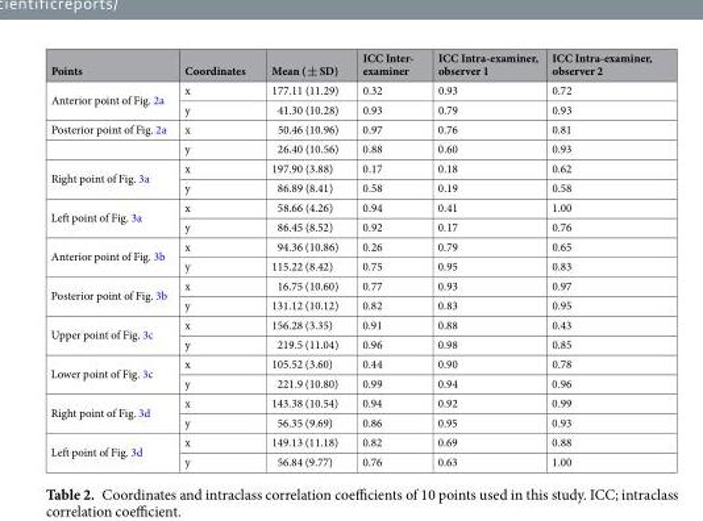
<table><thead><tr><td>Points</td><td>Coordinates</td><td>Mean ( ± SD)</td><td>ICC Inter- examiner</td><td>ICC Intra-examiner, observer 1</td><td>ICC Intra-examiner, observer 2</td></tr></thead><tbody><tr><td rowspan="2">Anterior point of Fig. 2a</td><td>x</td><td>177.11 (11.29)</td><td>0.32</td><td>0.93</td><td>0.72</td></tr><tr><td>y</td><td>41.30 (10.28)</td><td>0.93</td><td>0.79</td><td>0.93</td></tr><tr><td rowspan="2">Posterior point of Fig. 2a</td><td>x</td><td>50.46 (10.96)</td><td>0.97</td><td>0.76</td><td>0.81</td></tr><tr><td>y</td><td>26.40 (10.56)</td><td>0.88</td><td>0.60</td><td>0.93</td></tr><tr><td rowspan="2">Right point of Fig. 3a</td><td>x</td><td>197.90 (3.88)</td><td>0.17</td><td>0.18</td><td>0.62</td></tr><tr><td>y</td><td>86.89 (8.41)</td><td>0.58</td><td>0.19</td><td>0.58</td></tr><tr><td rowspan="2">Left point of Fig. 3a</td><td>x</td><td>58.66 (4.26)</td><td>0.94</td><td>0.41</td><td>1.00</td></tr><tr><td>y</td><td>86.45 (8.52)</td><td>0.92</td><td>0.17</td><td>0.76</td></tr><tr><td rowspan="2">Anterior point of Fig. 3b</td><td>x</td><td>94.36 (10.86)</td><td>0.26</td><td>0.79</td><td>0.65</td></tr><tr><td>y</td><td>115.22 (8.42)</td><td>0.75</td><td>0.95</td><td>0.83</td></tr><tr><td rowspan="2">Posterior point of Fig. 3b</td><td>x</td><td>16.75 (10.60)</td><td>0.77</td><td>0.93</td><td>0.97</td></tr><tr><td>y</td><td>131.12 (10.12)</td><td>0.82</td><td>0.83</td><td>0.95</td></tr><tr><td rowspan="2">Upper point of Fig. 3c</td><td>x</td><td>156.28 (3.35)</td><td>0.91</td><td>0.88</td><td>0.43</td></tr><tr><td>y</td><td>219.5 (11.04)</td><td>0.96</td><td>0.98</td><td>0.85</td></tr><tr><td rowspan="2">Lower point of Fig. 3c</td><td>x</td><td>105.52 (3.60)</td><td>0.44</td><td>0.90</td><td>0.78</td></tr><tr><td>y</td><td>221.9 (10.80)</td><td>0.99</td><td>0.94</td><td>0.96</td></tr><tr><td rowspan="2">Right point of Fig. 3d</td><td>x</td><td>143.38 (10.54)</td><td>0.94</td><td>0.92</td><td>0.99</td></tr><tr><td>y</td><td>56.35 (9.69)</td><td>0.86</td><td>0.95</td><td>0.93</td></tr><tr><td rowspan="2">Left point of Fig. 3d</td><td>x</td><td>149.13 (11.18)</td><td>0.82</td><td>0.69</td><td>0.88</td></tr><tr><td>y</td><td>56.84 (9.77)</td><td>0.76</td><td>0.63</td><td>1.00</td></tr></tbody></table>